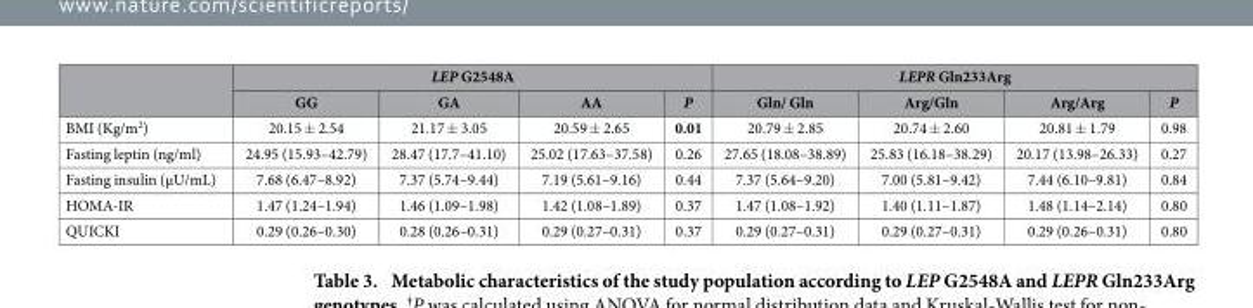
<table><thead><tr><td rowspan="2"></td><td colspan="4">LEP G2548A</td><td colspan="4">LEPR Gln233Arg</td></tr><tr><td>GG</td><td>GA</td><td>AA</td><td>P</td><td>Gln/ Gln</td><td>Arg/Gln</td><td>Arg/Arg</td><td>P</td></tr></thead><tbody><tr><td>BMI (Kg/m<sup>2</sup>)</td><td>20.15 ± 2.54</td><td>21.17 ± 3.05</td><td>20.59 ± 2.65</td><td>0.01</td><td>20.79 ± 2.85</td><td>20.74 ± 2.60</td><td>20.81 ± 1.79</td><td>0.98</td></tr><tr><td>Fasting leptin (ng/ml)</td><td>24.95 (15.93–42.79)</td><td>28.47 (17.7–41.10)</td><td>25.02 (17.63–37.58)</td><td>0.26</td><td>27.65 (18.08–38.89)</td><td>25.83 (16.18–38.29)</td><td>20.17 (13.98–26.33)</td><td>0.27</td></tr><tr><td>Fasting insulin (μU/mL)</td><td>7.68 (6.47–8.92)</td><td>7.37 (5.74–9.44)</td><td>7.19 (5.61–9.16)</td><td>0.44</td><td>7.37 (5.64–9.20)</td><td>7.00 (5.81–9.42)</td><td>7.44 (6.10–9.81)</td><td>0.84</td></tr><tr><td>HOMA-IR</td><td>1.47 (1.24–1.94)</td><td>1.46 (1.09–1.98)</td><td>1.42 (1.08–1.89)</td><td>0.37</td><td>1.47 (1.08–1.92)</td><td>1.40 (1.11–1.87)</td><td>1.48 (1.14–2.14)</td><td>0.80</td></tr><tr><td>QUICKI</td><td>0.29 (0.26–0.30)</td><td>0.28 (0.26–0.31)</td><td>0.29 (0.27–0.31)</td><td>0.37</td><td>0.29 (0.27–0.31)</td><td>0.29 (0.27–0.31)</td><td>0.29 (0.26–0.31)</td><td>0.80</td></tr></tbody></table>